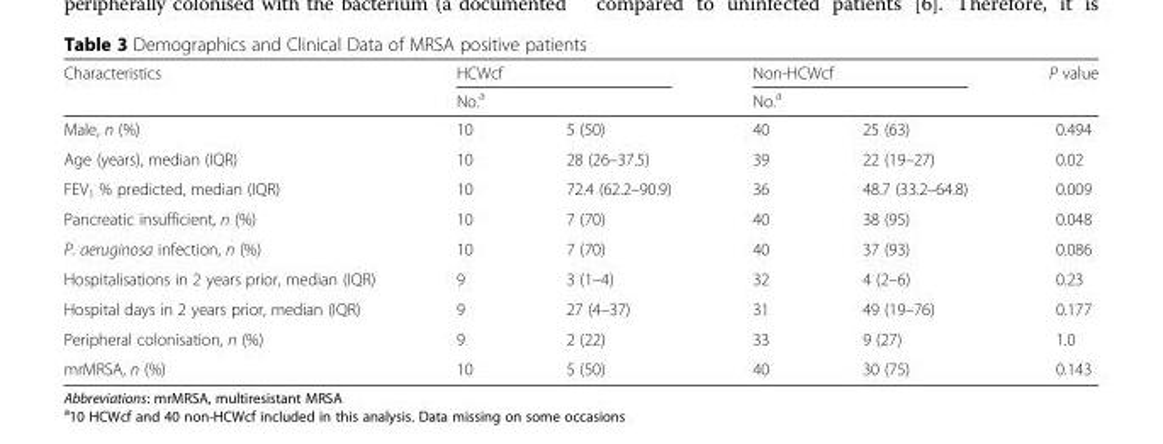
<table><thead><tr><td rowspan="2">Characteristics</td><td colspan="2">HCWcf</td><td colspan="2">Non-HCWcf</td><td rowspan="2">P value</td></tr><tr><td>No.<sup>a</sup></td><td></td><td>No.<sup>a</sup></td><td></td></tr></thead><tbody><tr><td>Male, n (%)</td><td>10</td><td>5 (50)</td><td>40</td><td>25 (63)</td><td>0.494</td></tr><tr><td>Age (years), median (IQR)</td><td>10</td><td>28 (26–37.5)</td><td>39</td><td>22 (19–27)</td><td>0.02</td></tr><tr><td>FEV<sub>1</sub> % predicted, median (IQR)</td><td>10</td><td>72.4 (62.2–90.9)</td><td>36</td><td>48.7 (33.2–64.8)</td><td>0.009</td></tr><tr><td>Pancreatic insufficient, n (%)</td><td>10</td><td>7 (70)</td><td>40</td><td>38 (95)</td><td>0.048</td></tr><tr><td>P. aeruginosa infection, n (%)</td><td>10</td><td>7 (70)</td><td>40</td><td>37 (93)</td><td>0.086</td></tr><tr><td>Hospitalisations in 2 years prior, median (IQR)</td><td>9</td><td>3 (1–4)</td><td>32</td><td>4 (2–6)</td><td>0.23</td></tr><tr><td>Hospital days in 2 years prior, median (IQR)</td><td>9</td><td>27 (4–37)</td><td>31</td><td>49 (19–76)</td><td>0.177</td></tr><tr><td>Peripheral colonisation, n (%)</td><td>9</td><td>2 (22)</td><td>33</td><td>9 (27)</td><td>1.0</td></tr><tr><td>mrMRSA, n (%)</td><td>10</td><td>5 (50)</td><td>40</td><td>30 (75)</td><td>0.143</td></tr></tbody></table>